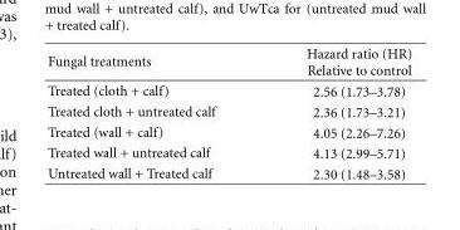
<table><thead><tr><td>Fungal treatments</td><td>Hazard ratio (HR) Relative to control</td></tr></thead><tbody><tr><td>Treated (cloth + calf)</td><td>2.56 (1.73–3.78)</td></tr><tr><td>Treated cloth + untreated calf</td><td>2.36 (1.73–3.21)</td></tr><tr><td>Treated (wall + calf)</td><td>4.05 (2.26–7.26)</td></tr><tr><td>Treated wall + untreated calf</td><td>4.13 (2.99–5.71)</td></tr><tr><td>Untreated wall + Treated calf</td><td>2.30 (1.48–3.58)</td></tr></tbody></table>